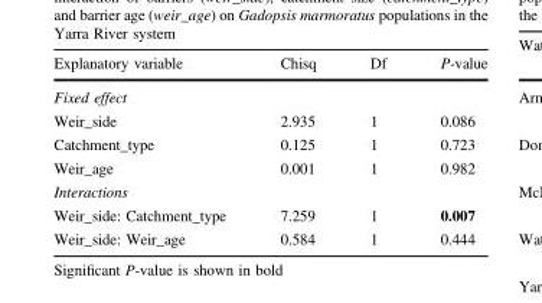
<table><thead><tr><td>Explanatory variable</td><td>Chisq</td><td>Df</td><td>P-value</td></tr></thead><tbody><tr><td colspan="4">Fixed effect</td></tr><tr><td>Weir_side</td><td>2.935</td><td>1</td><td>0.086</td></tr><tr><td>Catchment_type</td><td>0.125</td><td>1</td><td>0.723</td></tr><tr><td>Weir_age</td><td>0.001</td><td>1</td><td>0.982</td></tr><tr><td colspan="4">Interactions</td></tr><tr><td>Weir_side: Catchment_type</td><td>7.259</td><td>1</td><td>0.007</td></tr><tr><td>Weir_side: Weir_age</td><td>0.584</td><td>1</td><td>0.444</td></tr></tbody></table>